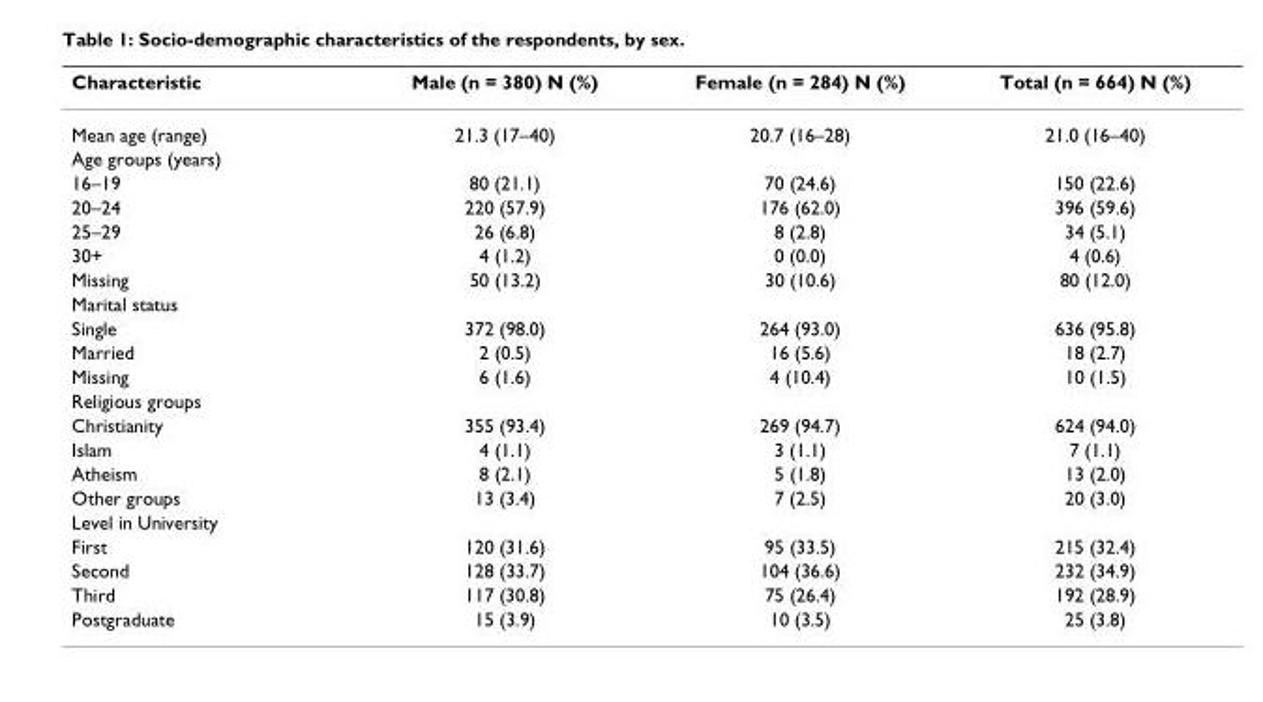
<table><thead><tr><td>Characteristic</td><td>Male (n = 380) N (%)</td><td>Female (n = 284) N (%)</td><td>Total (n = 664) N (%)</td></tr></thead><tbody><tr><td>Mean age (range)</td><td>21.3 (17–40)</td><td>20.7 (16–28)</td><td>21.0 (16–40)</td></tr><tr><td colspan="4">Age groups (years)</td></tr><tr><td>16–19</td><td>80 (21.1)</td><td>70 (24.6)</td><td>150 (22.6)</td></tr><tr><td>20–24</td><td>220 (57.9)</td><td>176 (62.0)</td><td>396 (59.6)</td></tr><tr><td>25–29</td><td>26 (6.8)</td><td>8 (2.8)</td><td>34 (5.1)</td></tr><tr><td>30+</td><td>4 (1.2)</td><td>0 (0.0)</td><td>4 (0.6)</td></tr><tr><td>Missing</td><td>50 (13.2)</td><td>30 (10.6)</td><td>80 (12.0)</td></tr><tr><td colspan="4">Marital status</td></tr><tr><td>Single</td><td>372 (98.0)</td><td>264 (93.0)</td><td>636 (95.8)</td></tr><tr><td>Married</td><td>2 (0.5)</td><td>16 (5.6)</td><td>18 (2.7)</td></tr><tr><td>Missing</td><td>6 (1.6)</td><td>4 (10.4)</td><td>10 (1.5)</td></tr><tr><td colspan="4">Religious groups</td></tr><tr><td>Christianity</td><td>355 (93.4)</td><td>269 (94.7)</td><td>624 (94.0)</td></tr><tr><td>Islam</td><td>4 (1.1)</td><td>3 (1.1)</td><td>7 (1.1)</td></tr><tr><td>Atheism</td><td>8 (2.1)</td><td>5 (1.8)</td><td>13 (2.0)</td></tr><tr><td>Other groups</td><td>13 (3.4)</td><td>7 (2.5)</td><td>20 (3.0)</td></tr><tr><td colspan="4">Level in University</td></tr><tr><td>First</td><td>120 (31.6)</td><td>95 (33.5)</td><td>215 (32.4)</td></tr><tr><td>Second</td><td>128 (33.7)</td><td>104 (36.6)</td><td>232 (34.9)</td></tr><tr><td>Third</td><td>117 (30.8)</td><td>75 (26.4)</td><td>192 (28.9)</td></tr><tr><td>Postgraduate</td><td>15 (3.9)</td><td>10 (3.5)</td><td>25 (3.8)</td></tr></tbody></table>